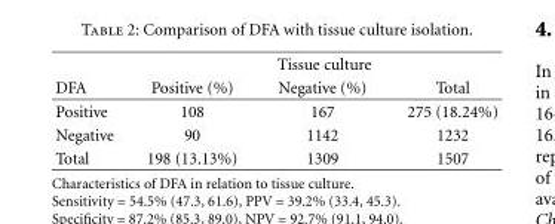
<table><thead><tr><td rowspan="2">DFA</td><td colspan="3">Tissue culture</td></tr><tr><td>Positive (%)</td><td>Negative (%)</td><td>Total</td></tr></thead><tbody><tr><td>Positive</td><td>108</td><td>167</td><td>275 (18.24%)</td></tr><tr><td>Negative</td><td>90</td><td>1142</td><td>1232</td></tr><tr><td>Total</td><td>198 (13.13%)</td><td>1309</td><td>1507</td></tr></tbody></table>